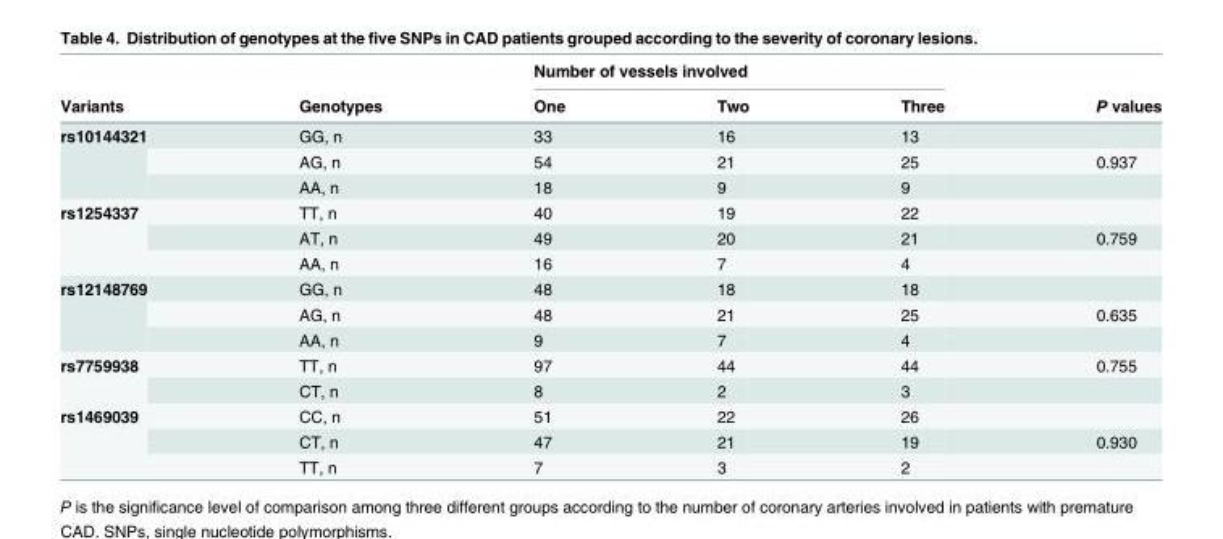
<table><thead><tr><td rowspan="2">Variants</td><td rowspan="2">Genotypes</td><td colspan="3">Number of vessels involved</td><td rowspan="2">P values</td></tr><tr><td>One</td><td>Two</td><td>Three</td></tr></thead><tbody><tr><td rowspan="3">rs10144321</td><td>GG, n</td><td>33</td><td>16</td><td>13</td><td></td></tr><tr><td>AG, n</td><td>54</td><td>21</td><td>25</td><td>0.937</td></tr><tr><td>AA, n</td><td>18</td><td>9</td><td>9</td><td></td></tr><tr><td rowspan="3">rs1254337</td><td>TT, n</td><td>40</td><td>19</td><td>22</td><td></td></tr><tr><td>AT, n</td><td>49</td><td>20</td><td>21</td><td>0.759</td></tr><tr><td>AA, n</td><td>16</td><td>7</td><td>4</td><td></td></tr><tr><td rowspan="3">rs12148769</td><td>GG, n</td><td>48</td><td>18</td><td>18</td><td></td></tr><tr><td>AG, n</td><td>48</td><td>21</td><td>25</td><td>0.635</td></tr><tr><td>AA, n</td><td>9</td><td>7</td><td>4</td><td></td></tr><tr><td rowspan="2">rs7759938</td><td>TT, n</td><td>97</td><td>44</td><td>44</td><td>0.755</td></tr><tr><td>CT, n</td><td>8</td><td>2</td><td>3</td><td></td></tr><tr><td rowspan="3">rs1469039</td><td>CC, n</td><td>51</td><td>22</td><td>26</td><td></td></tr><tr><td>CT, n</td><td>47</td><td>21</td><td>19</td><td>0.930</td></tr><tr><td>TT, n</td><td>7</td><td>3</td><td>2</td><td></td></tr></tbody></table>